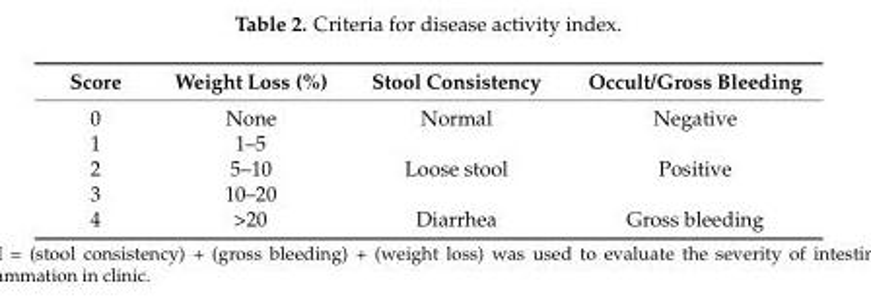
<table><thead><tr><td>Score</td><td>Weight Loss (%)</td><td>Stool Consistency</td><td>Occult/Gross Bleeding</td></tr></thead><tbody><tr><td>0 1 2 3 4</td><td>None 1–5 5–10 10–20 &gt;20</td><td>Normal Loose stool Diarrhea</td><td>Negative Positive Gross bleeding</td></tr></tbody></table>